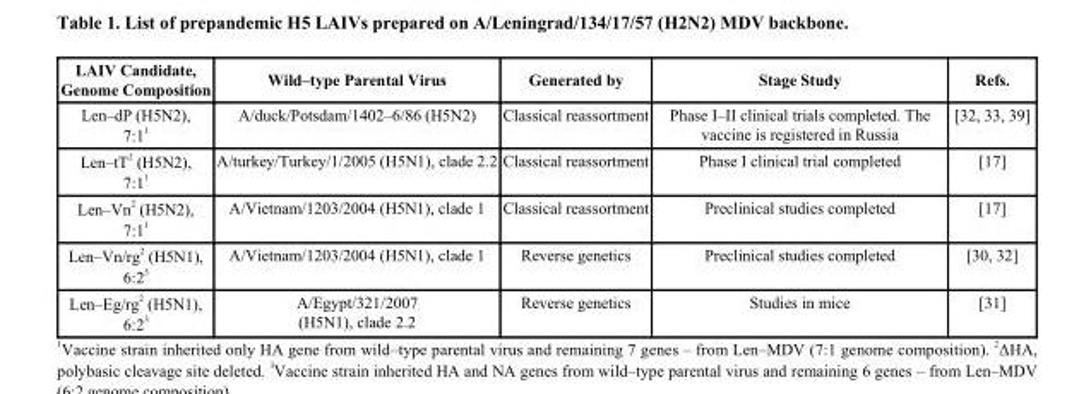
<table><thead><tr><td>LAIV Candidate, Genome Composition</td><td>Wild–type Parental Virus</td><td>Generated by</td><td>Stage Study</td><td>Refs.</td></tr></thead><tbody><tr><td>Len–dP (H5N2), 7:1 <sup>1</sup></td><td>A/duck/Potsdam/1402–6/86 (H5N2)</td><td>Classical reassortment</td><td>Phase I–II clinical trials completed. The vaccine is registered in Russia</td><td>[32, 33, 39]</td></tr><tr><td>Len–tT <sup>2</sup> (H5N2), 7:1 <sup>1</sup></td><td>A/turkey/Turkey/1/2005 (H5N1), clade 2.2</td><td>Classical reassortment</td><td>Phase I clinical trial completed</td><td>[17]</td></tr><tr><td>Len–Vn <sup>2</sup> (H5N2), 7:1 <sup>1</sup></td><td>A/Vietnam/1203/2004 (H5N1), clade 1</td><td>Classical reassortment</td><td>Preclinical studies completed</td><td>[17]</td></tr><tr><td>Len–Vn/rg <sup>2</sup> (H5N1), 6:2 <sup>3</sup></td><td>A/Vietnam/1203/2004 (H5N1), clade 1</td><td>Reverse genetics</td><td>Preclinical studies completed</td><td>[30, 32]</td></tr><tr><td>Len–Eg/rg <sup>2</sup> (H5N1), 6:2 <sup>3</sup></td><td>A/Egypt/321/2007 (H5N1), clade 2.2</td><td>Reverse genetics</td><td>Studies in mice</td><td>[31]</td></tr></tbody></table>